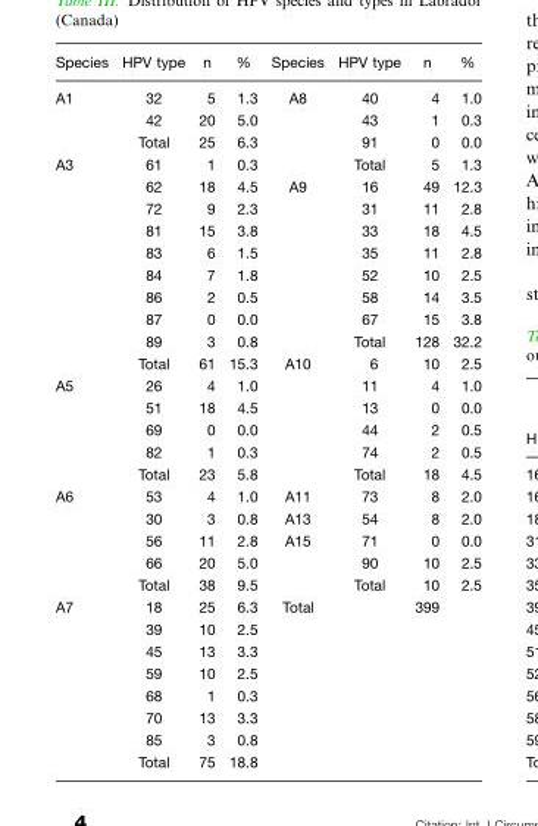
<table><thead><tr><td>Species</td><td>HPV type</td><td>n</td><td>%</td><td>Species</td><td>HPV type</td><td>n</td><td>%</td></tr></thead><tbody><tr><td rowspan="3">A1</td><td>32</td><td>5</td><td>1.3</td><td>A8</td><td>40</td><td>4</td><td>1.0</td></tr><tr><td>42</td><td>20</td><td>5.0</td><td></td><td>43</td><td>1</td><td>0.3</td></tr><tr><td>Total</td><td>25</td><td>6.3</td><td></td><td>91</td><td>0</td><td>0.0</td></tr><tr><td rowspan="10">A3</td><td>61</td><td>1</td><td>0.3</td><td></td><td>Total</td><td>5</td><td>1.3</td></tr><tr><td>62</td><td>18</td><td>4.5</td><td>A9</td><td>16</td><td>49</td><td>12.3</td></tr><tr><td>72</td><td>9</td><td>2.3</td><td></td><td>31</td><td>11</td><td>2.8</td></tr><tr><td>81</td><td>15</td><td>3.8</td><td></td><td>33</td><td>18</td><td>4.5</td></tr><tr><td>83</td><td>6</td><td>1.5</td><td></td><td>35</td><td>11</td><td>2.8</td></tr><tr><td>84</td><td>7</td><td>1.8</td><td></td><td>52</td><td>10</td><td>2.5</td></tr><tr><td>86</td><td>2</td><td>0.5</td><td></td><td>58</td><td>14</td><td>3.5</td></tr><tr><td>87</td><td>0</td><td>0.0</td><td></td><td>67</td><td>15</td><td>3.8</td></tr><tr><td>89</td><td>3</td><td>0.8</td><td></td><td>Total</td><td>128</td><td>32.2</td></tr><tr><td>Total</td><td>61</td><td>15.3</td><td>A10</td><td>6</td><td>10</td><td>2.5</td></tr><tr><td rowspan="5">A5</td><td>26</td><td>4</td><td>1.0</td><td></td><td>11</td><td>4</td><td>1.0</td></tr><tr><td>51</td><td>18</td><td>4.5</td><td></td><td>13</td><td>0</td><td>0.0</td></tr><tr><td>69</td><td>0</td><td>0.0</td><td></td><td>44</td><td>2</td><td>0.5</td></tr><tr><td>82</td><td>1</td><td>0.3</td><td></td><td>74</td><td>2</td><td>0.5</td></tr><tr><td>Total</td><td>23</td><td>5.8</td><td></td><td>Total</td><td>18</td><td>4.5</td></tr><tr><td rowspan="5">A6</td><td>53</td><td>4</td><td>1.0</td><td>A11</td><td>73</td><td>8</td><td>2.0</td></tr><tr><td>30</td><td>3</td><td>0.8</td><td>A13</td><td>54</td><td>8</td><td>2.0</td></tr><tr><td>56</td><td>11</td><td>2.8</td><td>A15</td><td>71</td><td>0</td><td>0.0</td></tr><tr><td>66</td><td>20</td><td>5.0</td><td></td><td>90</td><td>10</td><td>2.5</td></tr><tr><td>Total</td><td>38</td><td>9.5</td><td></td><td>Total</td><td>10</td><td>2.5</td></tr><tr><td rowspan="8">A7</td><td>18</td><td>25</td><td>6.3</td><td>Total</td><td></td><td>399</td><td></td></tr><tr><td>39</td><td>10</td><td>2.5</td><td></td><td></td><td></td><td></td></tr><tr><td>45</td><td>13</td><td>3.3</td><td></td><td></td><td></td><td></td></tr><tr><td>59</td><td>10</td><td>2.5</td><td></td><td></td><td></td><td></td></tr><tr><td>68</td><td>1</td><td>0.3</td><td></td><td></td><td></td><td></td></tr><tr><td>70</td><td>13</td><td>3.3</td><td></td><td></td><td></td><td></td></tr><tr><td>85</td><td>3</td><td>0.8</td><td></td><td></td><td></td><td></td></tr><tr><td>Total</td><td>75</td><td>18.8</td><td></td><td></td><td></td><td></td></tr></tbody></table>